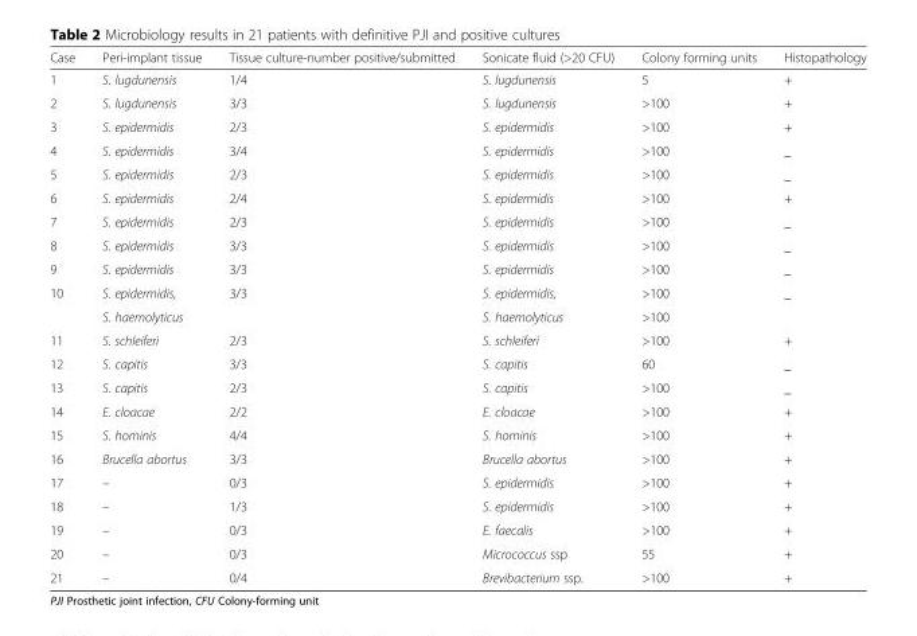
<table><thead><tr><td>Case</td><td>Peri-implant tissue</td><td>Tissue culture-number positive/submitted</td><td>Sonicate fluid (&gt;20 CFU)</td><td>Colony forming units</td><td>Histopathology</td></tr></thead><tbody><tr><td>1</td><td>S. lugdunensis</td><td>1/4</td><td>S. lugdunensis</td><td>5</td><td>+</td></tr><tr><td>2</td><td>S. lugdunensis</td><td>3/3</td><td>S. lugdunensis</td><td>&gt;100</td><td>+</td></tr><tr><td>3</td><td>S. epidermidis</td><td>2/3</td><td>S. epidermidis</td><td>&gt;100</td><td>+</td></tr><tr><td>4</td><td>S. epidermidis</td><td>3/4</td><td>S. epidermidis</td><td>&gt;100</td><td>_</td></tr><tr><td>5</td><td>S. epidermidis</td><td>2/3</td><td>S. epidermidis</td><td>&gt;100</td><td>_</td></tr><tr><td>6</td><td>S. epidermidis</td><td>2/4</td><td>S. epidermidis</td><td>&gt;100</td><td>+</td></tr><tr><td>7</td><td>S. epidermidis</td><td>2/3</td><td>S. epidermidis</td><td>&gt;100</td><td>_</td></tr><tr><td>8</td><td>S. epidermidis</td><td>3/3</td><td>S. epidermidis</td><td>&gt;100</td><td>_</td></tr><tr><td>9</td><td>S. epidermidis</td><td>3/3</td><td>S. epidermidis</td><td>&gt;100</td><td>_</td></tr><tr><td rowspan="2">10</td><td>S. epidermidis,</td><td rowspan="2">3/3</td><td>S. epidermidis,</td><td>&gt;100</td><td rowspan="2">_</td></tr><tr><td>S. haemolyticus</td><td>S. haemolyticus</td><td>&gt;100</td></tr><tr><td>11</td><td>S. schleiferi</td><td>2/3</td><td>S. schleiferi</td><td>&gt;100</td><td>+</td></tr><tr><td>12</td><td>S. capitis</td><td>3/3</td><td>S. capitis</td><td>60</td><td>_</td></tr><tr><td>13</td><td>S. capitis</td><td>2/3</td><td>S. capitis</td><td>&gt;100</td><td>_</td></tr><tr><td>14</td><td>E. cloacae</td><td>2/2</td><td>E. cloacae</td><td>&gt;100</td><td>+</td></tr><tr><td>15</td><td>S. hominis</td><td>4/4</td><td>S. hominis</td><td>&gt;100</td><td>+</td></tr><tr><td>16</td><td>Brucella abortus</td><td>3/3</td><td>Brucella abortus</td><td>&gt;100</td><td>+</td></tr><tr><td>17</td><td>–</td><td>0/3</td><td>S. epidermidis</td><td>&gt;100</td><td>+</td></tr><tr><td>18</td><td>–</td><td>1/3</td><td>S. epidermidis</td><td>&gt;100</td><td>+</td></tr><tr><td>19</td><td>–</td><td>0/3</td><td>E. faecalis</td><td>&gt;100</td><td>+</td></tr><tr><td>20</td><td>–</td><td>0/3</td><td>Micrococcus ssp</td><td>55</td><td>+</td></tr><tr><td>21</td><td>–</td><td>0/4</td><td>Brevibacterium ssp.</td><td>&gt;100</td><td>+</td></tr></tbody></table>